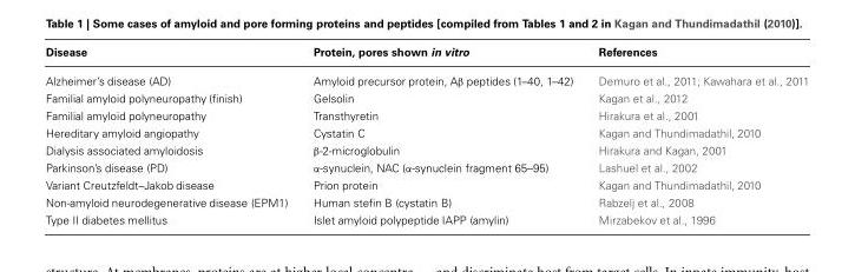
<table><thead><tr><td>Disease</td><td>Protein, pores shown in vitro</td><td>References</td></tr></thead><tbody><tr><td>Alzheimer’s disease (AD)</td><td>Amyloid precursor protein, Aβ peptides (1–40, 1–42)</td><td>Demuro et al., 2011; Kawahara et al., 2011</td></tr><tr><td>Familial amyloid polyneuropathy (finish)</td><td>Gelsolin</td><td>Kagan et al., 2012</td></tr><tr><td>Familial amyloid polyneuropathy</td><td>Transthyretin</td><td>Hirakura et al., 2001</td></tr><tr><td>Hereditary amyloid angiopathy</td><td>Cystatin C</td><td>Kagan and Thundimadathil, 2010</td></tr><tr><td>Dialysis associated amyloidosis</td><td>β-2-microglobulin</td><td>Hirakura and Kagan, 2001</td></tr><tr><td>Parkinson’s disease (PD)</td><td>α-synuclein, NAC (α-synuclein fragment 65–95)</td><td>Lashuel et al., 2002</td></tr><tr><td>Variant Creutzfeldt–Jakob disease</td><td>Prion protein</td><td>Kagan and Thundimadathil, 2010</td></tr><tr><td>Non-amyloid neurodegenerative disease (EPM1)</td><td>Human stefin B (cystatin B)</td><td>Rabzelj et al., 2008</td></tr><tr><td>Type II diabetes mellitus</td><td>Islet amyloid polypeptide IAPP (amylin)</td><td>Mirzabekov et al., 1996</td></tr></tbody></table>